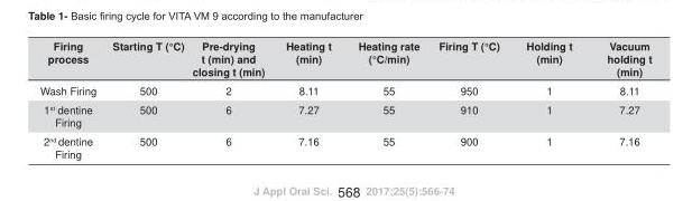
<table><thead><tr><td>Firing process</td><td>Starting T (°C)</td><td>Pre-drying t (min) and closing t (min)</td><td>Heating t (min)</td><td>Heating rate (°C/min)</td><td>Firing T (°C)</td><td>Holding t (min)</td><td>Vacuum holding t (min)</td></tr></thead><tbody><tr><td>Wash Firing</td><td>500</td><td>2</td><td>8.11</td><td>55</td><td>950</td><td>1</td><td>8.11</td></tr><tr><td>1<sup>st</sup> dentine Firing</td><td>500</td><td>6</td><td>7.27</td><td>55</td><td>910</td><td>1</td><td>7.27</td></tr><tr><td>2<sup>nd</sup> dentine Firing</td><td>500</td><td>6</td><td>7.16</td><td>55</td><td>900</td><td>1</td><td>7.16</td></tr></tbody></table>